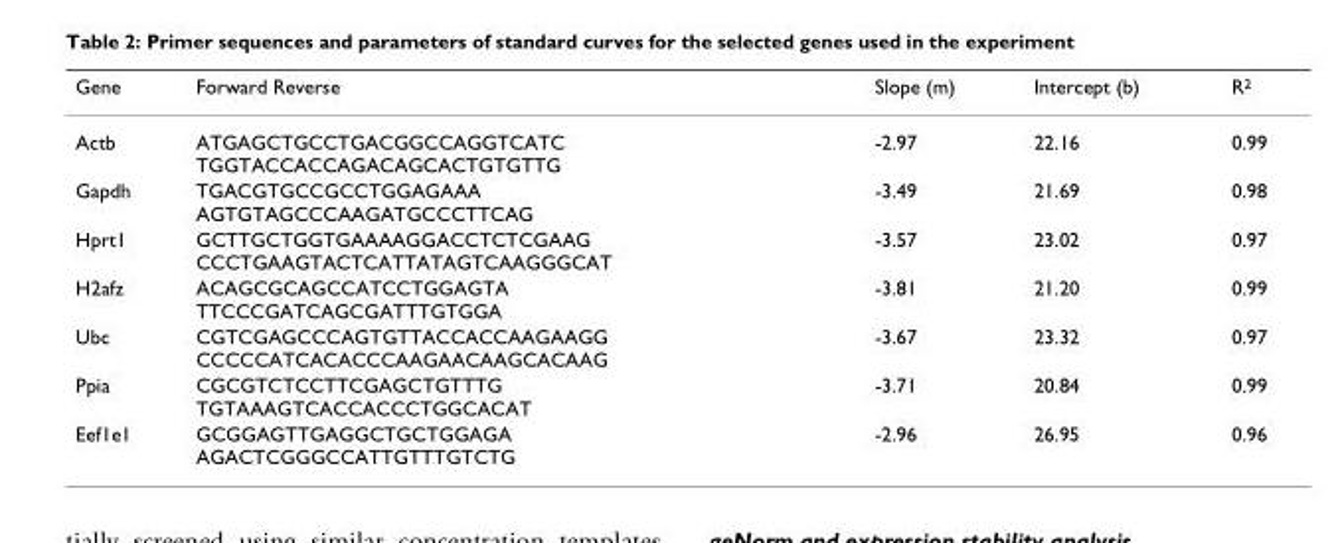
<table><thead><tr><td>Gene</td><td>Forward Reverse</td><td>Slope (m)</td><td>Intercept (b)</td><td>R<sup>2</sup></td></tr></thead><tbody><tr><td>Actb</td><td>ATGAGCTGCCTGACGGCCAGGTCATC TGGTACCACCAGACAGCACTGTGTTG</td><td>-2.97</td><td>22.16</td><td>0.99</td></tr><tr><td>Gapdh</td><td>TGACGTGCCGCCTGGAGAAA AGTGTAGCCCAAGATGCCCTTCAG</td><td>-3.49</td><td>21.69</td><td>0.98</td></tr><tr><td>Hprt1</td><td>GCTTGCTGGTGAAAAGGACCTCTCGAAG CCCTGAAGTACTCATTATAGTCAAGGGCAT</td><td>-3.57</td><td>23.02</td><td>0.97</td></tr><tr><td>H2afz</td><td>ACAGCGCAGCCATCCTGGAGTA TTCCCGATCAGCGATTTGTGGA</td><td>-3.81</td><td>21.20</td><td>0.99</td></tr><tr><td>Ubc</td><td>CGTCGAGCCCAGTGTTACCACCAAGAAGG CCCCCATCACACCCAAGAACAAGCACAAG</td><td>-3.67</td><td>23.32</td><td>0.97</td></tr><tr><td>Ppia</td><td>CGCGTCTCCTTCGAGCTGTTTG TGTAAAGTCACCACCCTGGCACAT</td><td>-3.71</td><td>20.84</td><td>0.99</td></tr><tr><td>Eef1e1</td><td>GCGGAGTTGAGGCTGCTGGAGA AGACTCGGGCCATTGTTTGTCTG</td><td>-2.96</td><td>26.95</td><td>0.96</td></tr></tbody></table>